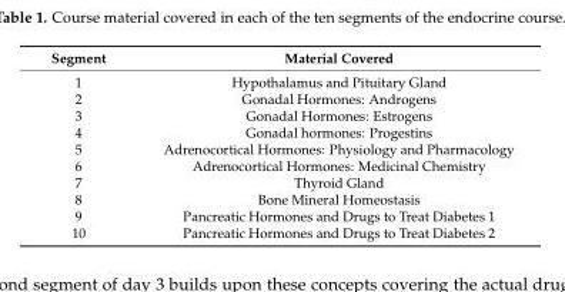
<table><thead><tr><td>Segment</td><td>Material Covered</td></tr></thead><tbody><tr><td>1</td><td>Hypothalamus and Pituitary Gland</td></tr><tr><td>2</td><td>Gonadal Hormones: Androgens</td></tr><tr><td>3</td><td>Gonadal Hormones: Estrogens</td></tr><tr><td>4</td><td>Gonadal hormones: Progestins</td></tr><tr><td>5</td><td>Adrenocortical Hormones: Physiology and Pharmacology</td></tr><tr><td>6</td><td>Adrenocortical Hormones: Medicinal Chemistry</td></tr><tr><td>7</td><td>Thyroid Gland</td></tr><tr><td>8</td><td>Bone Mineral Homeostasis</td></tr><tr><td>9</td><td>Pancreatic Hormones and Drugs to Treat Diabetes 1</td></tr><tr><td>10</td><td>Pancreatic Hormones and Drugs to Treat Diabetes 2</td></tr></tbody></table>